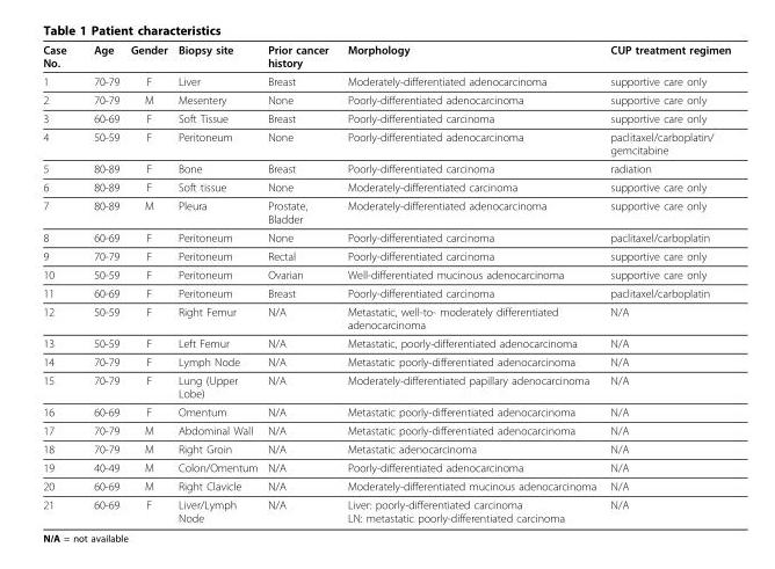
<table><thead><tr><td>Case No.</td><td>Age</td><td>Gender</td><td>Biopsy site</td><td>Prior cancer history</td><td>Morphology</td><td>CUP treatment regimen</td></tr></thead><tbody><tr><td>1</td><td>70-79</td><td>F</td><td>Liver</td><td>Breast</td><td>Moderately-differentiated adenocarcinoma</td><td>supportive care only</td></tr><tr><td>2</td><td>70-79</td><td>M</td><td>Mesentery</td><td>None</td><td>Poorly-differentiated adenocarcinoma</td><td>supportive care only</td></tr><tr><td>3</td><td>60-69</td><td>F</td><td>Soft Tissue</td><td>Breast</td><td>Poorly-differentiated carcinoma</td><td>supportive care only</td></tr><tr><td>4</td><td>50-59</td><td>F</td><td>Peritoneum</td><td>None</td><td>Poorly-differentiated adenocarcinoma</td><td>paclitaxel/carboplatin/ gemcitabine</td></tr><tr><td>5</td><td>80-89</td><td>F</td><td>Bone</td><td>Breast</td><td>Poorly-differentiated carcinoma</td><td>radiation</td></tr><tr><td>6</td><td>80-89</td><td>F</td><td>Soft tissue</td><td>None</td><td>Moderately-differentiated carcinoma</td><td>supportive care only</td></tr><tr><td>7</td><td>80-89</td><td>M</td><td>Pleura</td><td>Prostate, Bladder</td><td>Moderately-differentiated adenocarcinoma</td><td>supportive care only</td></tr><tr><td>8</td><td>60-69</td><td>F</td><td>Peritoneum</td><td>None</td><td>Poorly-differentiated carcinoma</td><td>paclitaxel/carboplatin</td></tr><tr><td>9</td><td>70-79</td><td>F</td><td>Peritoneum</td><td>Rectal</td><td>Poorly-differentiated carcinoma</td><td>supportive care only</td></tr><tr><td>10</td><td>50-59</td><td>F</td><td>Peritoneum</td><td>Ovarian</td><td>Well-differentiated mucinous adenocarcinoma</td><td>supportive care only</td></tr><tr><td>11</td><td>60-69</td><td>F</td><td>Peritoneum</td><td>Breast</td><td>Poorly-differentiated carcinoma</td><td>paclitaxel/carboplatin</td></tr><tr><td>12</td><td>50-59</td><td>F</td><td>Right Femur</td><td>N/A</td><td>Metastatic, well-to- moderately differentiated adenocarcinoma</td><td>N/A</td></tr><tr><td>13</td><td>50-59</td><td>F</td><td>Left Femur</td><td>N/A</td><td>Metastatic, poorly-differentiated adenocarcinoma</td><td>N/A</td></tr><tr><td>14</td><td>70-79</td><td>F</td><td>Lymph Node</td><td>N/A</td><td>Metastatic poorly-differentiated adenocarcinoma</td><td>N/A</td></tr><tr><td>15</td><td>70-79</td><td>F</td><td>Lung (Upper Lobe)</td><td>N/A</td><td>Moderately-differentiated papillary adenocarcinoma</td><td>N/A</td></tr><tr><td>16</td><td>60-69</td><td>F</td><td>Omentum</td><td>N/A</td><td>Metastatic poorly-differentiated adenocarcinoma</td><td>N/A</td></tr><tr><td>17</td><td>70-79</td><td>M</td><td>Abdominal Wall</td><td>N/A</td><td>Metastatic poorly-differentiated adenocarcinoma</td><td>N/A</td></tr><tr><td>18</td><td>70-79</td><td>M</td><td>Right Groin</td><td>N/A</td><td>Metastatic adenocarcinoma</td><td>N/A</td></tr><tr><td>19</td><td>40-49</td><td>M</td><td>Colon/Omentum</td><td>N/A</td><td>Poorly-differentiated adenocarcinoma</td><td>N/A</td></tr><tr><td>20</td><td>60-69</td><td>M</td><td>Right Clavicle</td><td>N/A</td><td>Moderately-differentiated mucinous adenocarcinoma</td><td>N/A</td></tr><tr><td>21</td><td>60-69</td><td>F</td><td>Liver/Lymph Node</td><td>N/A</td><td>Liver: poorly-differentiated carcinoma LN: metastatic poorly-differentiated carcinoma</td><td>N/A</td></tr></tbody></table>